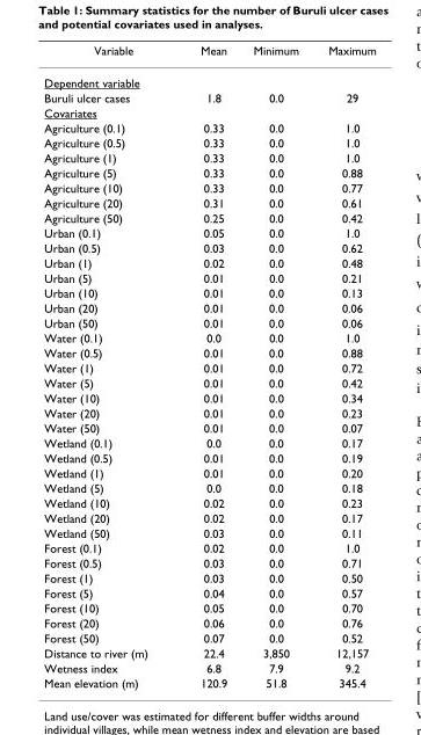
<table><thead><tr><td>Variable</td><td>Mean</td><td>Minimum</td><td>Maximum</td></tr></thead><tbody><tr><td colspan="4">Dependent variable</td></tr><tr><td>Buruli ulcer cases</td><td>1.8</td><td>0.0</td><td>29</td></tr><tr><td colspan="4">Covariates</td></tr><tr><td>Agriculture (0.1)</td><td>0.33</td><td>0.0</td><td>1.0</td></tr><tr><td>Agriculture (0.5)</td><td>0.33</td><td>0.0</td><td>1.0</td></tr><tr><td>Agriculture (1)</td><td>0.33</td><td>0.0</td><td>1.0</td></tr><tr><td>Agriculture (5)</td><td>0.33</td><td>0.0</td><td>0.88</td></tr><tr><td>Agriculture (10)</td><td>0.33</td><td>0.0</td><td>0.77</td></tr><tr><td>Agriculture (20)</td><td>0.31</td><td>0.0</td><td>0.61</td></tr><tr><td>Agriculture (50)</td><td>0.25</td><td>0.0</td><td>0.42</td></tr><tr><td>Urban (0.1)</td><td>0.05</td><td>0.0</td><td>1.0</td></tr><tr><td>Urban (0.5)</td><td>0.03</td><td>0.0</td><td>0.62</td></tr><tr><td>Urban (1)</td><td>0.02</td><td>0.0</td><td>0.48</td></tr><tr><td>Urban (5)</td><td>0.01</td><td>0.0</td><td>0.21</td></tr><tr><td>Urban (10)</td><td>0.01</td><td>0.0</td><td>0.13</td></tr><tr><td>Urban (20)</td><td>0.01</td><td>0.0</td><td>0.06</td></tr><tr><td>Urban (50)</td><td>0.01</td><td>0.0</td><td>0.06</td></tr><tr><td>Water (0.1)</td><td>0.0</td><td>0.0</td><td>1.0</td></tr><tr><td>Water (0.5)</td><td>0.01</td><td>0.0</td><td>0.88</td></tr><tr><td>Water (1)</td><td>0.01</td><td>0.0</td><td>0.72</td></tr><tr><td>Water (5)</td><td>0.01</td><td>0.0</td><td>0.42</td></tr><tr><td>Water (10)</td><td>0.01</td><td>0.0</td><td>0.34</td></tr><tr><td>Water (20)</td><td>0.01</td><td>0.0</td><td>0.23</td></tr><tr><td>Water (50)</td><td>0.01</td><td>0.0</td><td>0.07</td></tr><tr><td>Wetland (0.1)</td><td>0.0</td><td>0.0</td><td>0.17</td></tr><tr><td>Wetland (0.5)</td><td>0.01</td><td>0.0</td><td>0.19</td></tr><tr><td>Wetland (1)</td><td>0.01</td><td>0.0</td><td>0.20</td></tr><tr><td>Wetland (5)</td><td>0.0</td><td>0.0</td><td>0.18</td></tr><tr><td>Wetland (10)</td><td>0.02</td><td>0.0</td><td>0.23</td></tr><tr><td>Wetland (20)</td><td>0.02</td><td>0.0</td><td>0.17</td></tr><tr><td>Wetland (50)</td><td>0.03</td><td>0.0</td><td>0.11</td></tr><tr><td>Forest (0.1)</td><td>0.02</td><td>0.0</td><td>1.0</td></tr><tr><td>Forest (0.5)</td><td>0.03</td><td>0.0</td><td>0.71</td></tr><tr><td>Forest (1)</td><td>0.03</td><td>0.0</td><td>0.50</td></tr><tr><td>Forest (5)</td><td>0.04</td><td>0.0</td><td>0.57</td></tr><tr><td>Forest (10)</td><td>0.05</td><td>0.0</td><td>0.70</td></tr><tr><td>Forest (20)</td><td>0.06</td><td>0.0</td><td>0.76</td></tr><tr><td>Forest (50)</td><td>0.07</td><td>0.0</td><td>0.52</td></tr><tr><td>Distance to river (m)</td><td>22.4</td><td>3,850</td><td>12,157</td></tr><tr><td>Wetness index</td><td>6.8</td><td>7.9</td><td>9.2</td></tr><tr><td>Mean elevation (m)</td><td>120.9</td><td>51.8</td><td>345.4</td></tr></tbody></table>